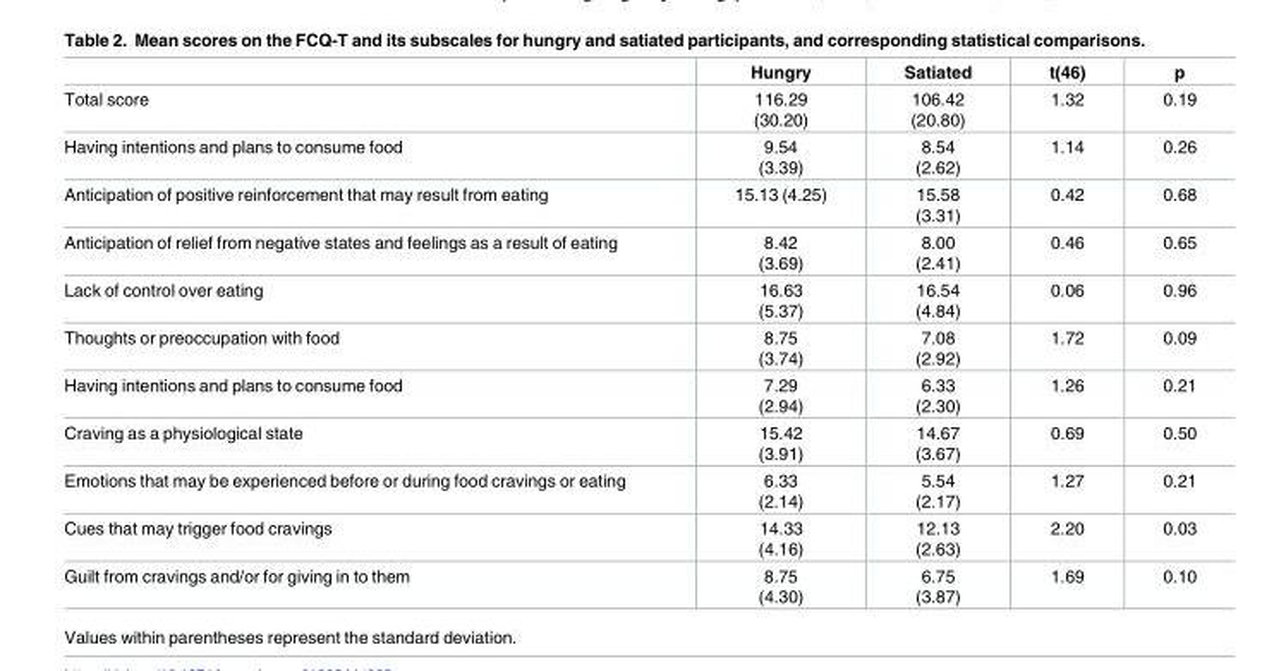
<table><thead><tr><td></td><td>Hungry</td><td>Satiated</td><td>t(46)</td><td>p</td></tr></thead><tbody><tr><td>Total score</td><td>116.29 (30.20)</td><td>106.42 (20.80)</td><td>1.32</td><td>0.19</td></tr><tr><td>Having intentions and plans to consume food</td><td>9.54 (3.39)</td><td>8.54 (2.62)</td><td>1.14</td><td>0.26</td></tr><tr><td>Anticipation of positive reinforcement that may result from eating</td><td>15.13 (4.25)</td><td>15.58 (3.31)</td><td>0.42</td><td>0.68</td></tr><tr><td>Anticipation of relief from negative states and feelings as a result of eating</td><td>8.42 (3.69)</td><td>8.00 (2.41)</td><td>0.46</td><td>0.65</td></tr><tr><td>Lack of control over eating</td><td>16.63 (5.37)</td><td>16.54 (4.84)</td><td>0.06</td><td>0.96</td></tr><tr><td>Thoughts or preoccupation with food</td><td>8.75 (3.74)</td><td>7.08 (2.92)</td><td>1.72</td><td>0.09</td></tr><tr><td>Having intentions and plans to consume food</td><td>7.29 (2.94)</td><td>6.33 (2.30)</td><td>1.26</td><td>0.21</td></tr><tr><td>Craving as a physiological state</td><td>15.42 (3.91)</td><td>14.67 (3.67)</td><td>0.69</td><td>0.50</td></tr><tr><td>Emotions that may be experienced before or during food cravings or eating</td><td>6.33 (2.14)</td><td>5.54 (2.17)</td><td>1.27</td><td>0.21</td></tr><tr><td>Cues that may trigger food cravings</td><td>14.33 (4.16)</td><td>12.13 (2.63)</td><td>2.20</td><td>0.03</td></tr><tr><td>Guilt from cravings and/or for giving in to them</td><td>8.75 (4.30)</td><td>6.75 (3.87)</td><td>1.69</td><td>0.10</td></tr></tbody></table>